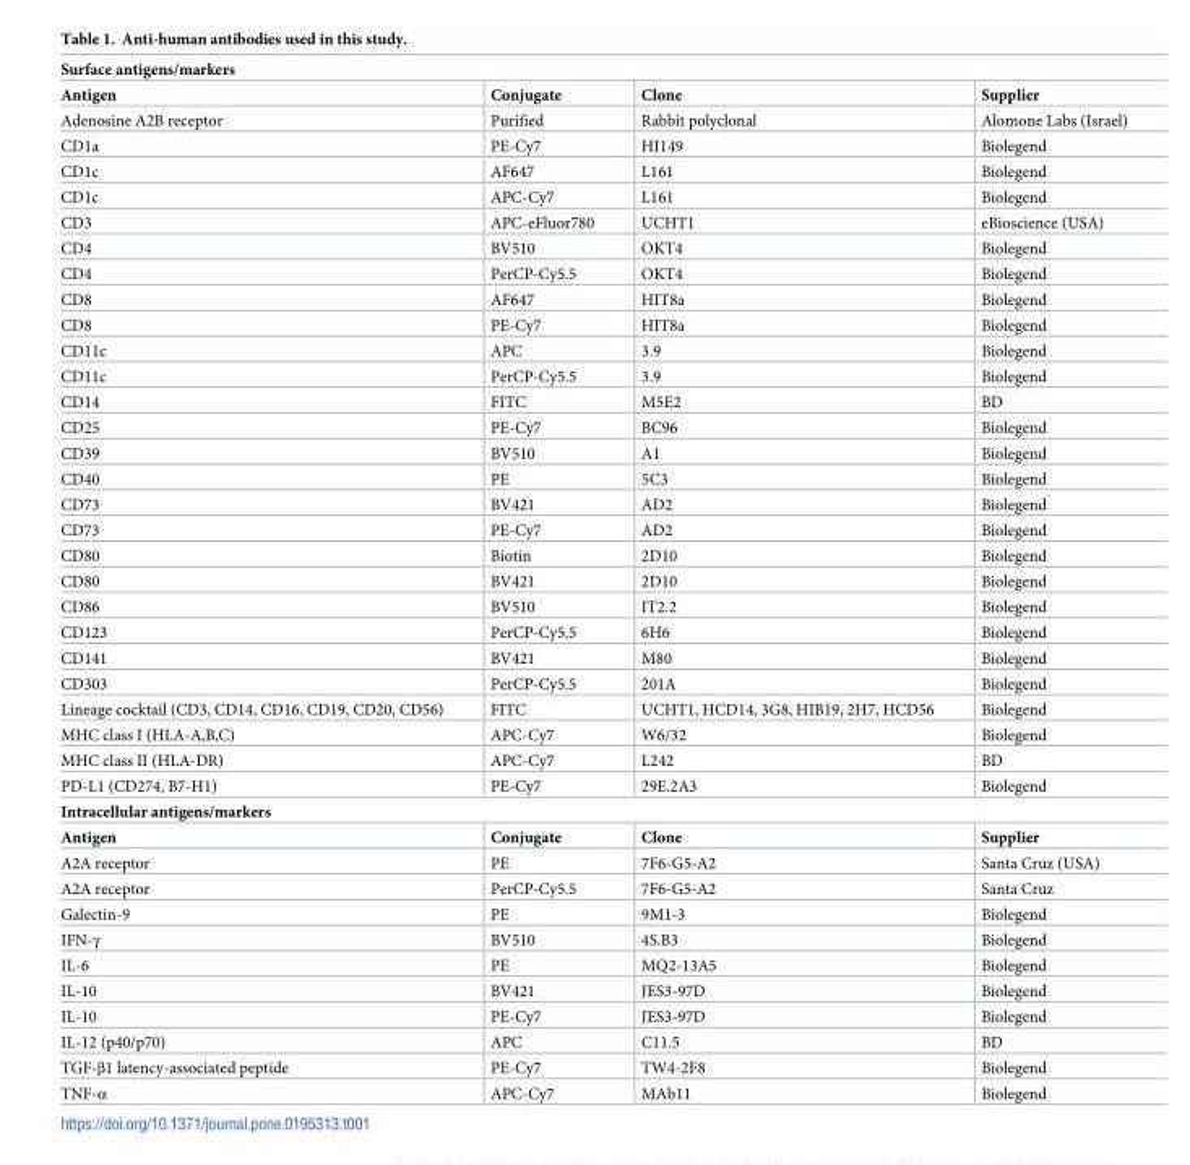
<table><tbody><tr><td colspan="4">Surface antigens/markers</td></tr><tr><td>Antigen</td><td>Conjugate</td><td>Clone</td><td>Supplier</td></tr><tr><td>Adenosine A2B receptor</td><td>Purified</td><td>Rabbit polyclonal</td><td>Alomone Labs (Israel)</td></tr><tr><td>CD1a</td><td>PE-Cy7</td><td>HI149</td><td>Biolegend</td></tr><tr><td>CD1c</td><td>AF647</td><td>L161</td><td>Biolegend</td></tr><tr><td>CD1c</td><td>APC-Cy7</td><td>L161</td><td>Biolegend</td></tr><tr><td>CD3</td><td>APC-eFluor780</td><td>UCHT1</td><td>eBioscience (USA)</td></tr><tr><td>CD4</td><td>BV510</td><td>OKT4</td><td>Biolegend</td></tr><tr><td>CD4</td><td>PerCP-Cy5.5</td><td>OKT4</td><td>Biolegend</td></tr><tr><td>CD8</td><td>AF647</td><td>HIT8a</td><td>Biolegend</td></tr><tr><td>CD8</td><td>PE-Cy7</td><td>HIT8a</td><td>Biolegend</td></tr><tr><td>CD11c</td><td>APC</td><td>3.9</td><td>Biolegend</td></tr><tr><td>CD11c</td><td>PerCP-Cy5.5</td><td>3.9</td><td>Biolegend</td></tr><tr><td>CD14</td><td>FITC</td><td>M5E2</td><td>BD</td></tr><tr><td>CD25</td><td>PE-Cy7</td><td>BC96</td><td>Biolegend</td></tr><tr><td>CD39</td><td>BV510</td><td>A1</td><td>Biolegend</td></tr><tr><td>CD40</td><td>PE</td><td>5C3</td><td>Biolegend</td></tr><tr><td>CD73</td><td>BV421</td><td>AD2</td><td>Biolegend</td></tr><tr><td>CD73</td><td>PE-Cy7</td><td>AD2</td><td>Biolegend</td></tr><tr><td>CD80</td><td>Biotin</td><td>2D10</td><td>Biolegend</td></tr><tr><td>CD80</td><td>BV421</td><td>2D10</td><td>Biolegend</td></tr><tr><td>CD86</td><td>BV510</td><td>IT2.2</td><td>Biolegend</td></tr><tr><td>CD123</td><td>PerCP-Cy5.5</td><td>6H6</td><td>Biolegend</td></tr><tr><td>CD141</td><td>BV421</td><td>M80</td><td>Biolegend</td></tr><tr><td>CD303</td><td>PerCP-Cy5.5</td><td>201A</td><td>Biolegend</td></tr><tr><td>Lineage cocktail (CD3, CD14, CD16, CD19, CD20, CD56)</td><td>FITC</td><td>UCHT1, HCD14, 3G8, HIB19, 2H7, HCD56</td><td>Biolegend</td></tr><tr><td>MHC class I (HLA-A,B,C)</td><td>APC-Cy7</td><td>W6/32</td><td>Biolegend</td></tr><tr><td>MHC class II (HLA-DR)</td><td>APC-Cy7</td><td>L242</td><td>BD</td></tr><tr><td>PD-L1 (CD274, B7-H1)</td><td>PE-Cy7</td><td>29E.2A3</td><td>Biolegend</td></tr><tr><td colspan="4">Intracellular antigens/markers</td></tr><tr><td>Antigen</td><td>Conjugate</td><td>Clone</td><td>Supplier</td></tr><tr><td>A2A receptor</td><td>PE</td><td>7F6-G5-A2</td><td>Santa Cruz (USA)</td></tr><tr><td>A2A receptor</td><td>PerCP-Cy5.5</td><td>7F6-G5-A2</td><td>Santa Cruz</td></tr><tr><td>Galectin-9</td><td>PE</td><td>9M1-3</td><td>Biolegend</td></tr><tr><td>IFN-γ</td><td>BV510</td><td>4S.B3</td><td>Biolegend</td></tr><tr><td>IL-6</td><td>PE</td><td>MQ2-13A5</td><td>Biolegend</td></tr><tr><td>IL-10</td><td>BV421</td><td>JES3-97D</td><td>Biolegend</td></tr><tr><td>IL-10</td><td>PE-Cy7</td><td>JES3-97D</td><td>Biolegend</td></tr><tr><td>IL-12 (p40/p70)</td><td>APC</td><td>C11.5</td><td>BD</td></tr><tr><td>TGF-β1 latency-associated peptide</td><td>PE-Cy7</td><td>TW4-2F8</td><td>Biolegend</td></tr><tr><td>TNF-α</td><td>APC-Cy7</td><td>MAb11</td><td>Biolegend</td></tr></tbody></table>